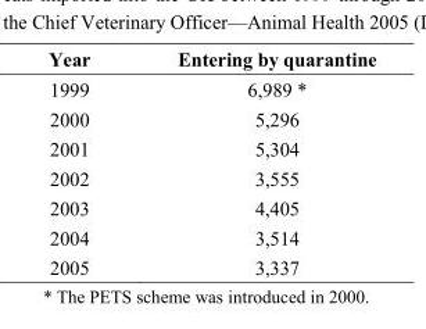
<table><thead><tr><td>Year</td><td>Entering by quarantine</td></tr></thead><tbody><tr><td>1999</td><td>6,989 *</td></tr><tr><td>2000</td><td>5,296</td></tr><tr><td>2001</td><td>5,304</td></tr><tr><td>2002</td><td>3,555</td></tr><tr><td>2003</td><td>4,405</td></tr><tr><td>2004</td><td>3,514</td></tr><tr><td>2005</td><td>3,337</td></tr></tbody></table>